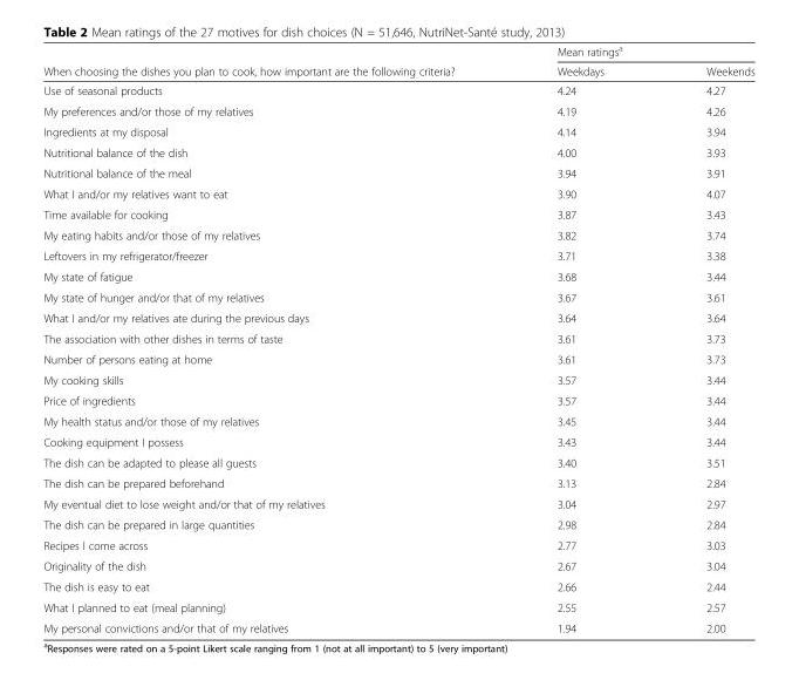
<table><thead><tr><td rowspan="2">When choosing the dishes you plan to cook, how important are the following criteria?</td><td colspan="2">Mean ratings<sup>a</sup></td></tr><tr><td>Weekdays</td><td>Weekends</td></tr></thead><tbody><tr><td>Use of seasonal products</td><td>4.24</td><td>4.27</td></tr><tr><td>My preferences and/or those of my relatives</td><td>4.19</td><td>4.26</td></tr><tr><td>Ingredients at my disposal</td><td>4.14</td><td>3.94</td></tr><tr><td>Nutritional balance of the dish</td><td>4.00</td><td>3.93</td></tr><tr><td>Nutritional balance of the meal</td><td>3.94</td><td>3.91</td></tr><tr><td>What I and/or my relatives want to eat</td><td>3.90</td><td>4.07</td></tr><tr><td>Time available for cooking</td><td>3.87</td><td>3.43</td></tr><tr><td>My eating habits and/or those of my relatives</td><td>3.82</td><td>3.74</td></tr><tr><td>Leftovers in my refrigerator/freezer</td><td>3.71</td><td>3.38</td></tr><tr><td>My state of fatigue</td><td>3.68</td><td>3.44</td></tr><tr><td>My state of hunger and/or that of my relatives</td><td>3.67</td><td>3.61</td></tr><tr><td>What I and/or my relatives ate during the previous days</td><td>3.64</td><td>3.64</td></tr><tr><td>The association with other dishes in terms of taste</td><td>3.61</td><td>3.73</td></tr><tr><td>Number of persons eating at home</td><td>3.61</td><td>3.73</td></tr><tr><td>My cooking skills</td><td>3.57</td><td>3.44</td></tr><tr><td>Price of ingredients</td><td>3.57</td><td>3.44</td></tr><tr><td>My health status and/or those of my relatives</td><td>3.45</td><td>3.44</td></tr><tr><td>Cooking equipment I possess</td><td>3.43</td><td>3.44</td></tr><tr><td>The dish can be adapted to please all guests</td><td>3.40</td><td>3.51</td></tr><tr><td>The dish can be prepared beforehand</td><td>3.13</td><td>2.84</td></tr><tr><td>My eventual diet to lose weight and/or that of my relatives</td><td>3.04</td><td>2.97</td></tr><tr><td>The dish can be prepared in large quantities</td><td>2.98</td><td>2.84</td></tr><tr><td>Recipes I come across</td><td>2.77</td><td>3.03</td></tr><tr><td>Originality of the dish</td><td>2.67</td><td>3.04</td></tr><tr><td>The dish is easy to eat</td><td>2.66</td><td>2.44</td></tr><tr><td>What I planned to eat (meal planning)</td><td>2.55</td><td>2.57</td></tr><tr><td>My personal convictions and/or that of my relatives</td><td>1.94</td><td>2.00</td></tr></tbody></table>